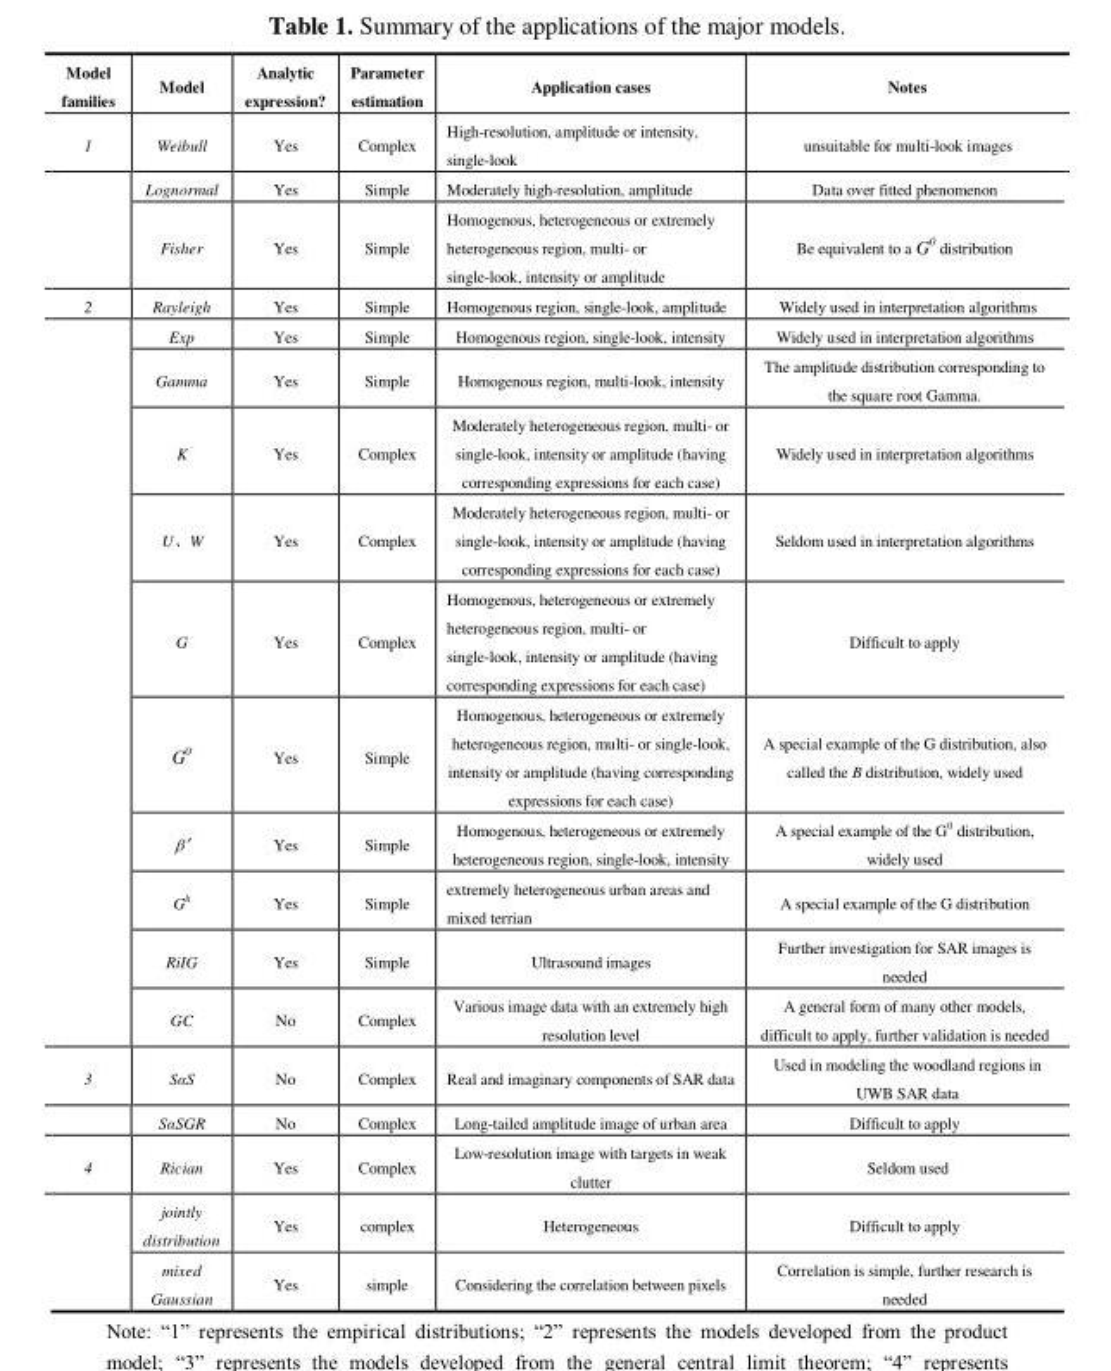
<table><thead><tr><td>Model families</td><td>Model</td><td>Analytic expression?</td><td>Parameter estimation</td><td>Application cases</td><td>Notes</td></tr></thead><tbody><tr><td rowspan="3">1</td><td>Weibull</td><td>Yes</td><td>Complex</td><td>High-resolution, amplitude or intensity, single-look</td><td>unsuitable for multi-look images</td></tr><tr><td>Lognormal</td><td>Yes</td><td>Simple</td><td>Moderately high-resolution, amplitude</td><td>Data over fitted phenomenon</td></tr><tr><td>Fisher</td><td>Yes</td><td>Simple</td><td>Homogenous, heterogeneous or extremely heterogeneous region, multi- or single-look, intensity or amplitude</td><td>Be equivalent to a G<sup>0</sup> distribution</td></tr><tr><td rowspan="11">2</td><td>Rayleigh</td><td>Yes</td><td>Simple</td><td>Homogenous region, single-look, amplitude</td><td>Widely used in interpretation algorithms</td></tr><tr><td>Exp</td><td>Yes</td><td>Simple</td><td>Homogenous region, single-look, intensity</td><td>Widely used in interpretation algorithms</td></tr><tr><td>Gamma</td><td>Yes</td><td>Simple</td><td>Homogenous region, multi-look, intensity</td><td>The amplitude distribution corresponding to the square root Gamma.</td></tr><tr><td>K</td><td>Yes</td><td>Complex</td><td>Moderately heterogeneous region, multi- or single-look, intensity or amplitude (having corresponding expressions for each case)</td><td>Widely used in interpretation algorithms</td></tr><tr><td>U、W</td><td>Yes</td><td>Complex</td><td>Moderately heterogeneous region, multi- or single-look, intensity or amplitude (having corresponding expressions for each case)</td><td>Seldom used in interpretation algorithms</td></tr><tr><td>G</td><td>Yes</td><td>Complex</td><td>Homogenous, heterogeneous or extremely heterogeneous region, multi- or single-look, intensity or amplitude (having corresponding expressions for each case)</td><td>Difficult to apply</td></tr><tr><td>G<sup>0</sup></td><td>Yes</td><td>Simple</td><td>Homogenous, heterogeneous or extremely heterogeneous region, multi- or single-look, intensity or amplitude (having corresponding expressions for each case)</td><td>A special example of the G distribution, also called the B distribution, widely used</td></tr><tr><td>β′</td><td>Yes</td><td>Simple</td><td>Homogenous, heterogeneous or extremely heterogeneous region, single-look, intensity</td><td>A special example of the G<sup>0</sup> distribution, widely used</td></tr><tr><td>G<sup>h</sup></td><td>Yes</td><td>Simple</td><td>extremely heterogeneous urban areas and mixed terrian</td><td>A special example of the G distribution</td></tr><tr><td>RiIG</td><td>Yes</td><td>Simple</td><td>Ultrasound images</td><td>Further investigation for SAR images is needed</td></tr><tr><td>GC</td><td>No</td><td>Complex</td><td>Various image data with an extremely high resolution level</td><td>A general form of many other models, difficult to apply, further validation is needed</td></tr><tr><td rowspan="2">3</td><td>SαS</td><td>No</td><td>Complex</td><td>Real and imaginary components of SAR data</td><td>Used in modeling the woodland regions in UWB SAR data</td></tr><tr><td>SαSGR</td><td>No</td><td>Complex</td><td>Long-tailed amplitude image of urban area</td><td>Difficult to apply</td></tr><tr><td rowspan="3">4</td><td>Rician</td><td>Yes</td><td>Complex</td><td>Low-resolution image with targets in weak clutter</td><td>Seldom used</td></tr><tr><td>jointly distribution</td><td>Yes</td><td>complex</td><td>Heterogeneous</td><td>Difficult to apply</td></tr><tr><td>mixed Gaussian</td><td>Yes</td><td>simple</td><td>Considering the correlation between pixels</td><td>Correlation is simple, further research is needed</td></tr></tbody></table>